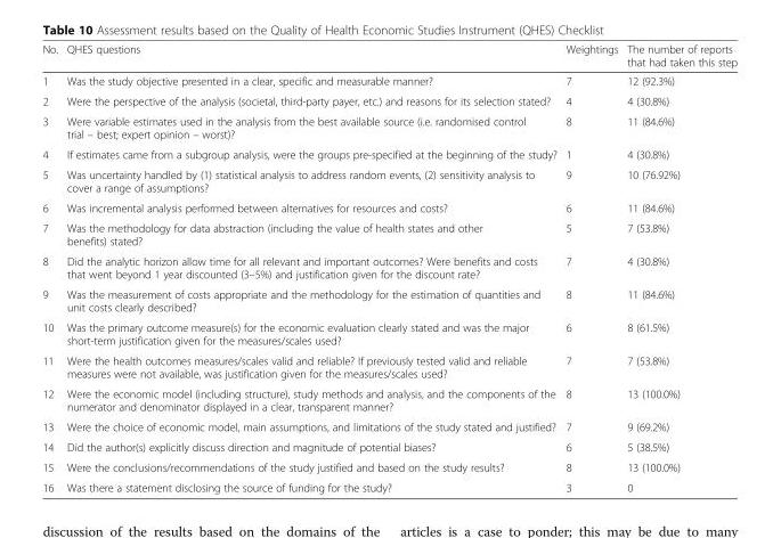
<table><thead><tr><td>No.</td><td>QHES questions</td><td>Weightings</td><td>The number of reports that had taken this step</td></tr></thead><tbody><tr><td>1</td><td>Was the study objective presented in a clear, specific and measurable manner?</td><td>7</td><td>12 (92.3%)</td></tr><tr><td>2</td><td>Were the perspective of the analysis (societal, third-party payer, etc.) and reasons for its selection stated?</td><td>4</td><td>4 (30.8%)</td></tr><tr><td>3</td><td>Were variable estimates used in the analysis from the best available source (i.e. randomised control trial – best; expert opinion – worst)?</td><td>8</td><td>11 (84.6%)</td></tr><tr><td>4</td><td>If estimates came from a subgroup analysis, were the groups pre-specified at the beginning of the study?</td><td>1</td><td>4 (30.8%)</td></tr><tr><td>5</td><td>Was uncertainty handled by (1) statistical analysis to address random events, (2) sensitivity analysis to cover a range of assumptions?</td><td>9</td><td>10 (76.92%)</td></tr><tr><td>6</td><td>Was incremental analysis performed between alternatives for resources and costs?</td><td>6</td><td>11 (84.6%)</td></tr><tr><td>7</td><td>Was the methodology for data abstraction (including the value of health states and other benefits) stated?</td><td>5</td><td>7 (53.8%)</td></tr><tr><td>8</td><td>Did the analytic horizon allow time for all relevant and important outcomes? Were benefits and costs that went beyond 1 year discounted (3–5%) and justification given for the discount rate?</td><td>7</td><td>4 (30.8%)</td></tr><tr><td>9</td><td>Was the measurement of costs appropriate and the methodology for the estimation of quantities and unit costs clearly described?</td><td>8</td><td>11 (84.6%)</td></tr><tr><td>10</td><td>Was the primary outcome measure(s) for the economic evaluation clearly stated and was the major short-term justification given for the measures/scales used?</td><td>6</td><td>8 (61.5%)</td></tr><tr><td>11</td><td>Were the health outcomes measures/scales valid and reliable? If previously tested valid and reliable measures were not available, was justification given for the measures/scales used?</td><td>7</td><td>7 (53.8%)</td></tr><tr><td>12</td><td>Were the economic model (including structure), study methods and analysis, and the components of the numerator and denominator displayed in a clear, transparent manner?</td><td>8</td><td>13 (100.0%)</td></tr><tr><td>13</td><td>Were the choice of economic model, main assumptions, and limitations of the study stated and justified?</td><td>7</td><td>9 (69.2%)</td></tr><tr><td>14</td><td>Did the author(s) explicitly discuss direction and magnitude of potential biases?</td><td>6</td><td>5 (38.5%)</td></tr><tr><td>15</td><td>Were the conclusions/recommendations of the study justified and based on the study results?</td><td>8</td><td>13 (100.0%)</td></tr><tr><td>16</td><td>Was there a statement disclosing the source of funding for the study?</td><td>3</td><td>0</td></tr></tbody></table>